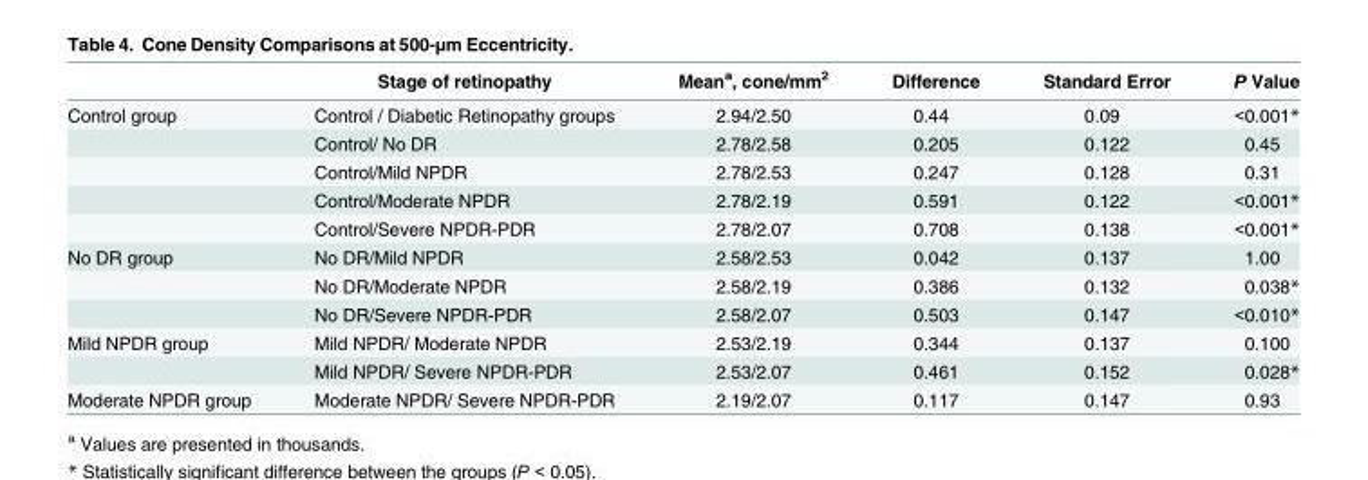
<table><thead><tr><td></td><td>Stage of retinopathy</td><td>Mean<sup>a</sup>, cone/mm<sup>2</sup></td><td>Difference</td><td>Standard Error</td><td>P Value</td></tr></thead><tbody><tr><td rowspan="5">Control group</td><td>Control / Diabetic Retinopathy groups</td><td>2.94/2.50</td><td>0.44</td><td>0.09</td><td>&lt;0.001*</td></tr><tr><td>Control/ No DR</td><td>2.78/2.58</td><td>0.205</td><td>0.122</td><td>0.45</td></tr><tr><td>Control/Mild NPDR</td><td>2.78/2.53</td><td>0.247</td><td>0.128</td><td>0.31</td></tr><tr><td>Control/Moderate NPDR</td><td>2.78/2.19</td><td>0.591</td><td>0.122</td><td>&lt;0.001*</td></tr><tr><td>Control/Severe NPDR-PDR</td><td>2.78/2.07</td><td>0.708</td><td>0.138</td><td>&lt;0.001*</td></tr><tr><td rowspan="3">No DR group</td><td>No DR/Mild NPDR</td><td>2.58/2.53</td><td>0.042</td><td>0.137</td><td>1.00</td></tr><tr><td>No DR/Moderate NPDR</td><td>2.58/2.19</td><td>0.386</td><td>0.132</td><td>0.038*</td></tr><tr><td>No DR/Severe NPDR-PDR</td><td>2.58/2.07</td><td>0.503</td><td>0.147</td><td>&lt;0.010*</td></tr><tr><td rowspan="2">Mild NPDR group</td><td>Mild NPDR/ Moderate NPDR</td><td>2.53/2.19</td><td>0.344</td><td>0.137</td><td>0.100</td></tr><tr><td>Mild NPDR/ Severe NPDR-PDR</td><td>2.53/2.07</td><td>0.461</td><td>0.152</td><td>0.028*</td></tr><tr><td>Moderate NPDR group</td><td>Moderate NPDR/ Severe NPDR-PDR</td><td>2.19/2.07</td><td>0.117</td><td>0.147</td><td>0.93</td></tr></tbody></table>